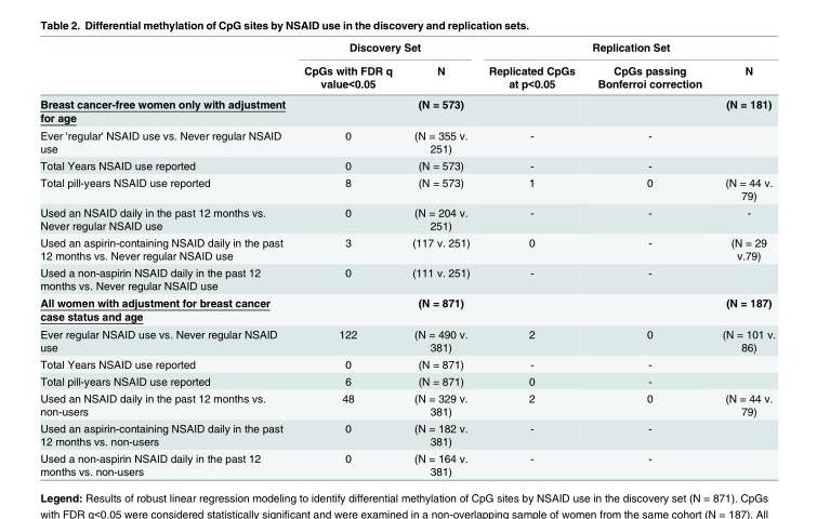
<table><thead><tr><td rowspan="2"></td><td colspan="2">Discovery Set</td><td colspan="3">Replication Set</td></tr><tr><td>CpGs with FDR q value&lt;0.05</td><td>N</td><td>Replicated CpGs at p&lt;0.05</td><td>CpGs passing Bonferroi correction</td><td>N</td></tr></thead><tbody><tr><td>Breast cancer-free women only with adjustment for age</td><td></td><td>(N = 573)</td><td></td><td></td><td>(N = 181)</td></tr><tr><td>Ever &#x27;regular&#x27; NSAID use vs. Never regular NSAID use</td><td>0</td><td>(N = 355 v. 251)</td><td>-</td><td>-</td><td></td></tr><tr><td>Total Years NSAID use reported</td><td>0</td><td>(N = 573)</td><td>-</td><td>-</td><td></td></tr><tr><td>Total pill-years NSAID use reported</td><td>8</td><td>(N = 573)</td><td>1</td><td>0</td><td>(N = 44 v. 79)</td></tr><tr><td>Used an NSAID daily in the past 12 months vs. Never regular NSAID use</td><td>0</td><td>(N = 204 v. 251)</td><td>-</td><td>-</td><td>-</td></tr><tr><td>Used an aspirin-containing NSAID daily in the past 12 months vs. Never regular NSAID use</td><td>3</td><td>(117 v. 251)</td><td>0</td><td>-</td><td>(N = 29 v.79)</td></tr><tr><td>Used a non-aspirin NSAID daily in the past 12 months vs. Never regular NSAID use</td><td>0</td><td>(111 v. 251)</td><td>-</td><td>-</td><td></td></tr><tr><td>All women with adjustment for breast cancer case status and age</td><td></td><td>(N = 871)</td><td></td><td></td><td>(N = 187)</td></tr><tr><td>Ever regular NSAID use vs. Never regular NSAID use</td><td>122</td><td>(N = 490 v. 381)</td><td>2</td><td>0</td><td>(N = 101 v. 86)</td></tr><tr><td>Total Years NSAID use reported</td><td>0</td><td>(N = 871)</td><td>-</td><td>-</td><td></td></tr><tr><td>Total pill-years NSAID use reported</td><td>6</td><td>(N = 871)</td><td>0</td><td>-</td><td></td></tr><tr><td>Used an NSAID daily in the past 12 months vs. non-users</td><td>48</td><td>(N = 329 v. 381)</td><td>2</td><td>0</td><td>(N = 44 v. 79)</td></tr><tr><td>Used an aspirin-containing NSAID daily in the past 12 months vs. non-users</td><td>0</td><td>(N = 182 v. 381)</td><td>-</td><td>-</td><td></td></tr><tr><td>Used a non-aspirin NSAID daily in the past 12 months vs. non-users</td><td>0</td><td>(N = 164 v. 381)</td><td>-</td><td>-</td><td></td></tr></tbody></table>